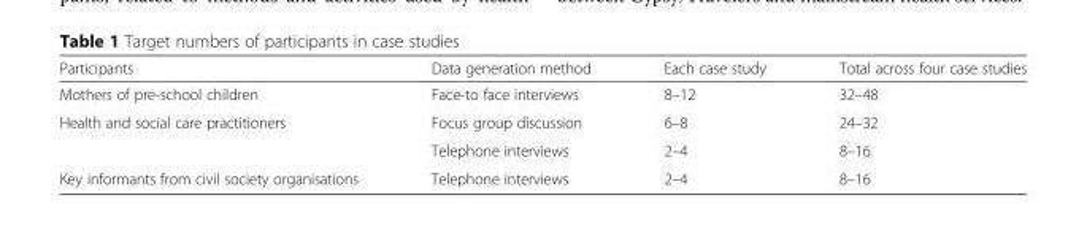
<table><thead><tr><td>Participants</td><td>Data generation method</td><td>Each case study</td><td>Total across four case studies</td></tr></thead><tbody><tr><td>Mothers of pre-school children</td><td>Face-to face interviews</td><td>8–12</td><td>32–48</td></tr><tr><td rowspan="2">Health and social care practitioners</td><td>Focus group discussion</td><td>6–8</td><td>24–32</td></tr><tr><td>Telephone interviews</td><td>2–4</td><td>8–16</td></tr><tr><td>Key informants from civil society organisations</td><td>Telephone interviews</td><td>2–4</td><td>8–16</td></tr></tbody></table>